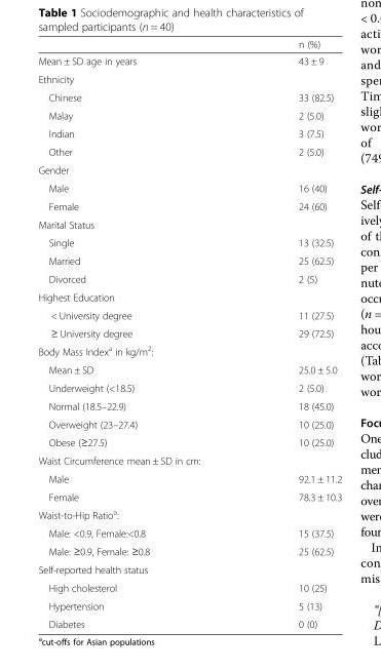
<table><thead><tr><td></td><td>n (%)</td></tr></thead><tbody><tr><td>Mean ± SD age in years</td><td>43 ± 9</td></tr><tr><td colspan="2">Ethnicity</td></tr><tr><td>Chinese</td><td>33 (82.5)</td></tr><tr><td>Malay</td><td>2 (5.0)</td></tr><tr><td>Indian</td><td>3 (7.5)</td></tr><tr><td>Other</td><td>2 (5.0)</td></tr><tr><td colspan="2">Gender</td></tr><tr><td>Male</td><td>16 (40)</td></tr><tr><td>Female</td><td>24 (60)</td></tr><tr><td colspan="2">Marital Status</td></tr><tr><td>Single</td><td>13 (32.5)</td></tr><tr><td>Married</td><td>25 (62.5)</td></tr><tr><td>Divorced</td><td>2 (5)</td></tr><tr><td colspan="2">Highest Education</td></tr><tr><td>&lt; University degree</td><td>11 (27.5)</td></tr><tr><td>≥ University degree</td><td>29 (72.5)</td></tr><tr><td colspan="2">Body Mass Index<sup>a</sup> in kg/m<sup>2</sup>:</td></tr><tr><td>Mean ± SD</td><td>25.0 ± 5.0</td></tr><tr><td>Underweight (&lt;18.5)</td><td>2 (5.0)</td></tr><tr><td>Normal (18.5–22.9)</td><td>18 (45.0)</td></tr><tr><td>Overweight (23–27.4)</td><td>10 (25.0)</td></tr><tr><td>Obese (≥27.5)</td><td>10 (25.0)</td></tr><tr><td colspan="2">Waist Circumference mean ± SD in cm:</td></tr><tr><td>Male</td><td>92.1 ± 11.2</td></tr><tr><td>Female</td><td>78.3 ± 10.3</td></tr><tr><td colspan="2">Waist-to-Hip Ratio<sup>a</sup>:</td></tr><tr><td>Male: &lt;0.9, Female:&lt;0.8</td><td>15 (37.5)</td></tr><tr><td>Male: ≥0.9, Female: ≥0.8</td><td>25 (62.5)</td></tr><tr><td colspan="2">Self-reported health status</td></tr><tr><td>High cholesterol</td><td>10 (25)</td></tr><tr><td>Hypertension</td><td>5 (13)</td></tr><tr><td>Diabetes</td><td>0 (0)</td></tr></tbody></table>